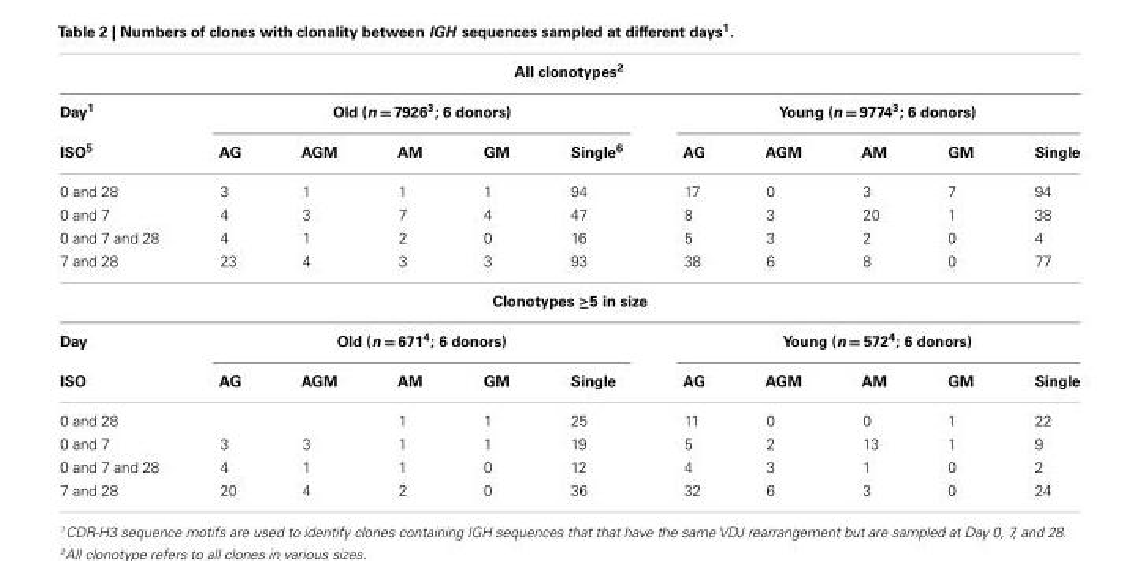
<table><thead><tr><td colspan="11">All clonotypes<sup>2</sup></td></tr><tr><td rowspan="2">Day<sup>1</sup> ISO<sup>5</sup></td><td colspan="5">Old (n = 7926<sup>3</sup>; 6 donors)</td><td colspan="5">Young (n = 9774<sup>3</sup>; 6 donors)</td></tr><tr><td>AG</td><td>AGM</td><td>AM</td><td>GM</td><td>Single<sup>6</sup></td><td>AG</td><td>AGM</td><td>AM</td><td>GM</td><td>Single</td></tr></thead><tbody><tr><td>0 and 28</td><td>3</td><td>1</td><td>1</td><td>1</td><td>94</td><td>17</td><td>0</td><td>3</td><td>7</td><td>94</td></tr><tr><td>0 and 7</td><td>4</td><td>3</td><td>7</td><td>4</td><td>47</td><td>8</td><td>3</td><td>20</td><td>1</td><td>38</td></tr><tr><td>0 and 7 and 28</td><td>4</td><td>1</td><td>2</td><td>0</td><td>16</td><td>5</td><td>3</td><td>2</td><td>0</td><td>4</td></tr><tr><td>7 and 28</td><td>23</td><td>4</td><td>3</td><td>3</td><td>93</td><td>38</td><td>6</td><td>8</td><td>0</td><td>77</td></tr><tr><td colspan="11">Clonotypes ≥5 in size</td></tr><tr><td>Day</td><td colspan="5">Old (n = 671<sup>4</sup>; 6 donors)</td><td colspan="5">Young (n = 572<sup>4</sup>; 6 donors)</td></tr><tr><td>ISO</td><td>AG</td><td>AGM</td><td>AM</td><td>GM</td><td>Single</td><td>AG</td><td>AGM</td><td>AM</td><td>GM</td><td>Single</td></tr><tr><td>0 and 28</td><td></td><td></td><td>1</td><td>1</td><td>25</td><td>11</td><td>0</td><td>0</td><td>1</td><td>22</td></tr><tr><td>0 and 7</td><td>3</td><td>3</td><td>1</td><td>1</td><td>19</td><td>5</td><td>2</td><td>13</td><td>1</td><td>9</td></tr><tr><td>0 and 7 and 28</td><td>4</td><td>1</td><td>1</td><td>0</td><td>12</td><td>4</td><td>3</td><td>1</td><td>0</td><td>2</td></tr><tr><td>7 and 28</td><td>20</td><td>4</td><td>2</td><td>0</td><td>36</td><td>32</td><td>6</td><td>3</td><td>0</td><td>24</td></tr></tbody></table>